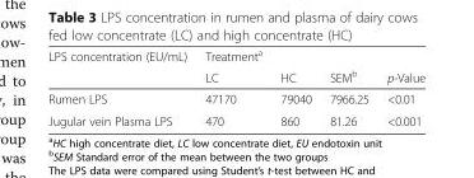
<table><thead><tr><td rowspan="2">LPS concentration (EU/mL)</td><td rowspan="2">Treatment<sup>a</sup> LC</td><td rowspan="2">HC</td><td rowspan="2">SEM<sup>b</sup></td><td rowspan="2">p-Value</td></tr><tr></tr></thead><tbody><tr><td>Rumen LPS</td><td>47170</td><td>79040</td><td>7966.25</td><td>&lt;0.01</td></tr><tr><td>Jugular vein Plasma LPS</td><td>470</td><td>860</td><td>81.26</td><td>&lt;0.001</td></tr></tbody></table>